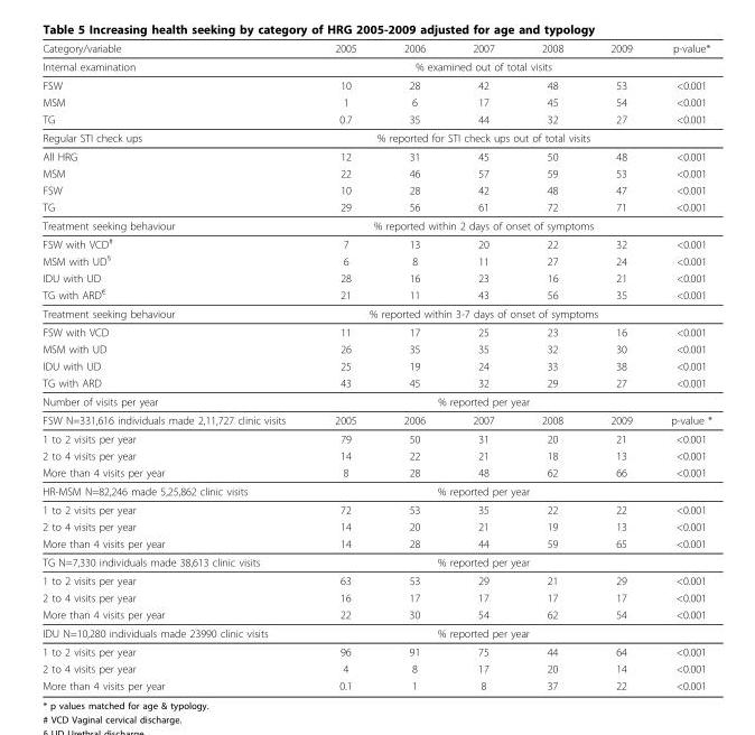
<table><thead><tr><td>Category/variable</td><td>2005</td><td>2006</td><td>2007</td><td>2008</td><td>2009</td><td>p-value*</td></tr></thead><tbody><tr><td>Internal examination</td><td colspan="5">% examined out of total visits</td><td></td></tr><tr><td>FSW</td><td>10</td><td>28</td><td>42</td><td>48</td><td>53</td><td>&lt;0.001</td></tr><tr><td>MSM</td><td>1</td><td>6</td><td>17</td><td>45</td><td>54</td><td>&lt;0.001</td></tr><tr><td>TG</td><td>0.7</td><td>35</td><td>44</td><td>32</td><td>27</td><td>&lt;0.001</td></tr><tr><td>Regular STI check ups</td><td colspan="5">% reported for STI check ups out of total visits</td><td></td></tr><tr><td>All HRG</td><td>12</td><td>31</td><td>45</td><td>50</td><td>48</td><td>&lt;0.001</td></tr><tr><td>MSM</td><td>22</td><td>46</td><td>57</td><td>59</td><td>53</td><td>&lt;0.001</td></tr><tr><td>FSW</td><td>10</td><td>28</td><td>42</td><td>48</td><td>47</td><td>&lt;0.001</td></tr><tr><td>TG</td><td>29</td><td>56</td><td>61</td><td>72</td><td>71</td><td>&lt;0.001</td></tr><tr><td>Treatment seeking behaviour</td><td colspan="5">% reported within 2 days of onset of symptoms</td><td></td></tr><tr><td>FSW with VCD<sup>#</sup></td><td>7</td><td>13</td><td>20</td><td>22</td><td>32</td><td>&lt;0.001</td></tr><tr><td>MSM with UD<sup>§</sup></td><td>6</td><td>8</td><td>11</td><td>27</td><td>24</td><td>&lt;0.001</td></tr><tr><td>IDU with UD</td><td>28</td><td>16</td><td>23</td><td>16</td><td>21</td><td>&lt;0.001</td></tr><tr><td>TG with ARD<sup>€</sup></td><td>21</td><td>11</td><td>43</td><td>56</td><td>35</td><td>&lt;0.001</td></tr><tr><td>Treatment seeking behaviour</td><td colspan="5">% reported within 3-7 days of onset of symptoms</td><td></td></tr><tr><td>FSW with VCD</td><td>11</td><td>17</td><td>25</td><td>23</td><td>16</td><td>&lt;0.001</td></tr><tr><td>MSM with UD</td><td>26</td><td>35</td><td>35</td><td>32</td><td>30</td><td>&lt;0.001</td></tr><tr><td>IDU with UD</td><td>25</td><td>19</td><td>24</td><td>33</td><td>38</td><td>&lt;0.001</td></tr><tr><td>TG with ARD</td><td>43</td><td>45</td><td>32</td><td>29</td><td>27</td><td>&lt;0.001</td></tr><tr><td>Number of visits per year</td><td colspan="5">% reported per year</td><td></td></tr><tr><td>FSW N=331,616 individuals made 2,11,727 clinic visits</td><td>2005</td><td>2006</td><td>2007</td><td>2008</td><td>2009</td><td>p-value *</td></tr><tr><td>1 to 2 visits per year</td><td>79</td><td>50</td><td>31</td><td>20</td><td>21</td><td>&lt;0.001</td></tr><tr><td>2 to 4 visits per year</td><td>14</td><td>22</td><td>21</td><td>18</td><td>13</td><td>&lt;0.001</td></tr><tr><td>More than 4 visits per year</td><td>8</td><td>28</td><td>48</td><td>62</td><td>66</td><td>&lt;0.001</td></tr><tr><td>HR-MSM N=82,246 made 5,25,862 clinic visits</td><td colspan="5">% reported per year</td><td></td></tr><tr><td>1 to 2 visits per year</td><td>72</td><td>53</td><td>35</td><td>22</td><td>22</td><td>&lt;0.001</td></tr><tr><td>2 to 4 visits per year</td><td>14</td><td>20</td><td>21</td><td>19</td><td>13</td><td>&lt;0.001</td></tr><tr><td>More than 4 visits per year</td><td>14</td><td>28</td><td>44</td><td>59</td><td>65</td><td>&lt;0.001</td></tr><tr><td>TG N=7,330 individuals made 38,613 clinic visits</td><td colspan="5">% reported per year</td><td></td></tr><tr><td>1 to 2 visits per year</td><td>63</td><td>53</td><td>29</td><td>21</td><td>29</td><td>&lt;0.001</td></tr><tr><td>2 to 4 visits per year</td><td>16</td><td>17</td><td>17</td><td>17</td><td>17</td><td>&lt;0.001</td></tr><tr><td>More than 4 visits per year</td><td>22</td><td>30</td><td>54</td><td>62</td><td>54</td><td>&lt;0.001</td></tr><tr><td>IDU N=10,280 individuals made 23990 clinic visits</td><td colspan="5">% reported per year</td><td></td></tr><tr><td>1 to 2 visits per year</td><td>96</td><td>91</td><td>75</td><td>44</td><td>64</td><td>&lt;0.001</td></tr><tr><td>2 to 4 visits per year</td><td>4</td><td>8</td><td>17</td><td>20</td><td>14</td><td>&lt;0.001</td></tr><tr><td>More than 4 visits per year</td><td>0.1</td><td>1</td><td>8</td><td>37</td><td>22</td><td>&lt;0.001</td></tr></tbody></table>